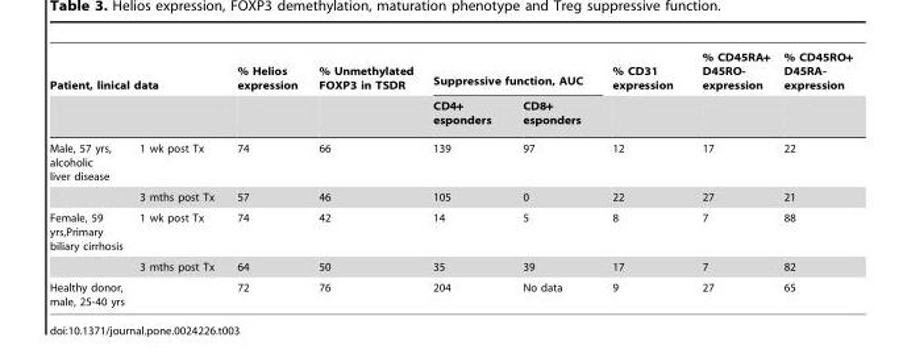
<table><thead><tr><td colspan="2">Patient, linical data</td><td rowspan="2">% Helios expression</td><td rowspan="2">% Unmethylated FOXP3 in TSDR</td><td colspan="2">Suppressive function, AUC</td><td rowspan="2">% CD31 expression</td><td rowspan="2">% CD45RA+ D45RO- expression</td><td rowspan="2">% CD45RO+ D45RA- expression</td></tr><tr><td></td><td></td><td>CD4+ esponders</td><td>CD8+ esponders</td></tr></thead><tbody><tr><td rowspan="2">Male, 57 yrs, alcoholic liver disease</td><td>1 wk post Tx</td><td>74</td><td>66</td><td>139</td><td>97</td><td>12</td><td>17</td><td>22</td></tr><tr><td>3 mths post Tx</td><td>57</td><td>46</td><td>105</td><td>0</td><td>22</td><td>27</td><td>21</td></tr><tr><td rowspan="2">Female, 59 yrs,Primary biliary cirrhosis</td><td>1 wk post Tx</td><td>74</td><td>42</td><td>14</td><td>5</td><td>8</td><td>7</td><td>88</td></tr><tr><td>3 mths post Tx</td><td>64</td><td>50</td><td>35</td><td>39</td><td>17</td><td>7</td><td>82</td></tr><tr><td colspan="2">Healthy donor, male, 25-40 yrs</td><td>72</td><td>76</td><td>204</td><td>No data</td><td>9</td><td>27</td><td>65</td></tr></tbody></table>